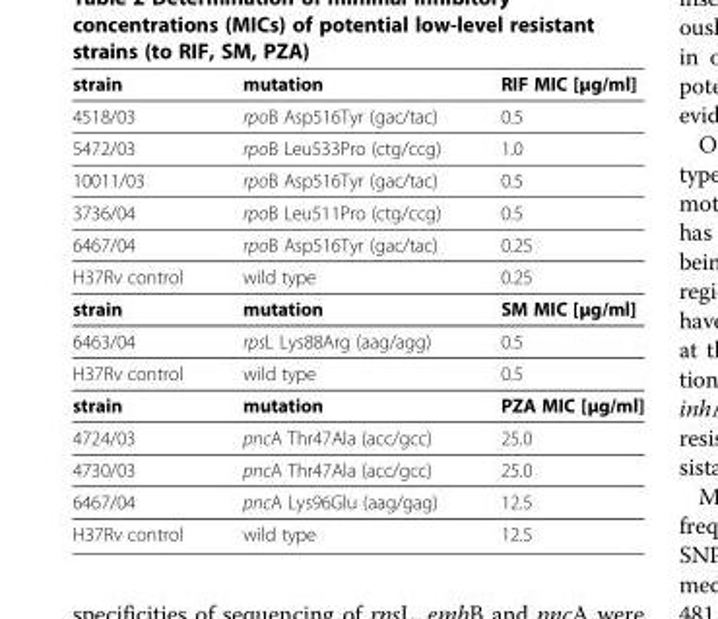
<table><tbody><tr><td>strain</td><td>mutation</td><td>RIF MIC [μg/ml]</td></tr><tr><td>4518/03</td><td>rpoB Asp516Tyr (gac/tac)</td><td>0.5</td></tr><tr><td>5472/03</td><td>rpoB Leu533Pro (ctg/ccg)</td><td>1.0</td></tr><tr><td>10011/03</td><td>rpoB Asp516Tyr (gac/tac)</td><td>0.5</td></tr><tr><td>3736/04</td><td>rpoB Leu511Pro (ctg/ccg)</td><td>0.5</td></tr><tr><td>6467/04</td><td>rpoB Asp516Tyr (gac/tac)</td><td>0.25</td></tr><tr><td>H37Rv control</td><td>wild type</td><td>0.25</td></tr><tr><td>strain</td><td>mutation</td><td>SM MIC [μg/ml]</td></tr><tr><td>6463/04</td><td>rpsL Lys88Arg (aag/agg)</td><td>0.5</td></tr><tr><td>H37Rv control</td><td>wild type</td><td>0.5</td></tr><tr><td>strain</td><td>mutation</td><td>PZA MIC [μg/ml]</td></tr><tr><td>4724/03</td><td>pncA Thr47Ala (acc/gcc)</td><td>25.0</td></tr><tr><td>4730/03</td><td>pncA Thr47Ala (acc/gcc)</td><td>25.0</td></tr><tr><td>6467/04</td><td>pncA Lys96Glu (aag/gag)</td><td>12.5</td></tr><tr><td>H37Rv control</td><td>wild type</td><td>12.5</td></tr></tbody></table>